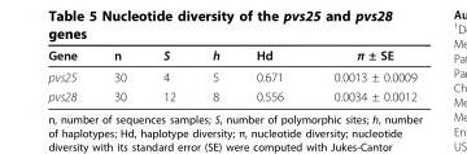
<table><thead><tr><td>Gene</td><td>n</td><td>S</td><td>h</td><td>Hd</td><td>π ± SE</td></tr></thead><tbody><tr><td>pvs25</td><td>30</td><td>4</td><td>5</td><td>0.671</td><td>0.0013 ± 0.0009</td></tr><tr><td>pvs28</td><td>30</td><td>12</td><td>8</td><td>0.556</td><td>0.0034 ± 0.0012</td></tr></tbody></table>